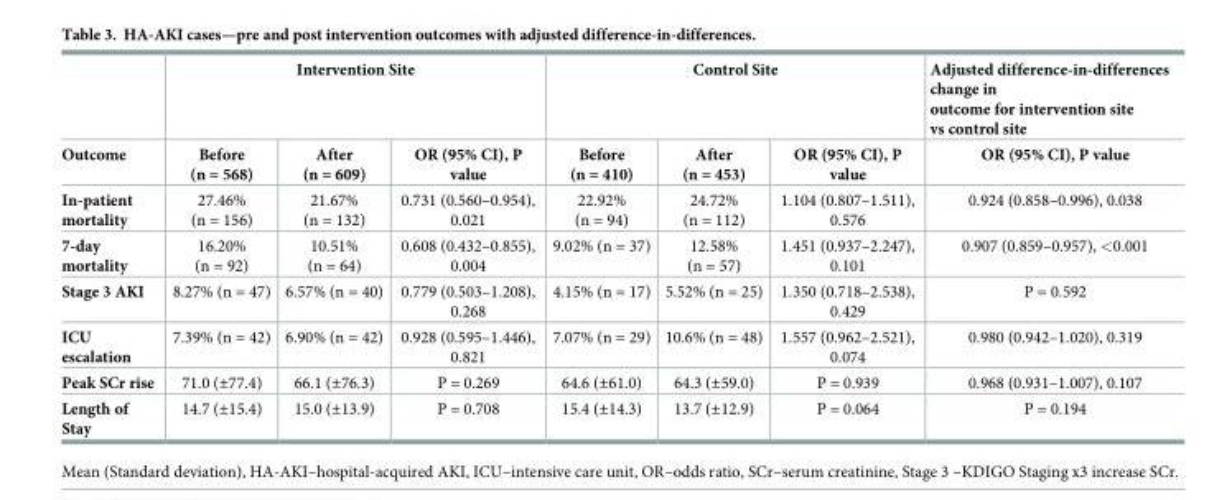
<table><thead><tr><td rowspan="2">Outcome</td><td colspan="3">Intervention Site</td><td colspan="3">Control Site</td><td rowspan="2">Adjusted difference-in-differences change in outcome for intervention site vs control site OR (95% CI), P value</td></tr><tr><td>Before (n = 568)</td><td>After (n = 609)</td><td>OR (95% CI), P value</td><td>Before (n = 410)</td><td>After (n = 453)</td><td>OR (95% CI), P value</td></tr></thead><tbody><tr><td>In-patient mortality</td><td>27.46% (n = 156)</td><td>21.67% (n = 132)</td><td>0.731 (0.560–0.954), 0.021</td><td>22.92% (n = 94)</td><td>24.72% (n = 112)</td><td>1.104 (0.807–1.511), 0.576</td><td>0.924 (0.858–0.996), 0.038</td></tr><tr><td>7-day mortality</td><td>16.20% (n = 92)</td><td>10.51% (n = 64)</td><td>0.608 (0.432–0.855), 0.004</td><td>9.02% (n = 37)</td><td>12.58% (n = 57)</td><td>1.451 (0.937–2.247), 0.101</td><td>0.907 (0.859–0.957), &lt;0.001</td></tr><tr><td>Stage 3 AKI</td><td>8.27% (n = 47)</td><td>6.57% (n = 40)</td><td>0.779 (0.503–1.208), 0.268</td><td>4.15% (n = 17)</td><td>5.52% (n = 25)</td><td>1.350 (0.718–2.538), 0.429</td><td>P = 0.592</td></tr><tr><td>ICU escalation</td><td>7.39% (n = 42)</td><td>6.90% (n = 42)</td><td>0.928 (0.595–1.446), 0.821</td><td>7.07% (n = 29)</td><td>10.6% (n = 48)</td><td>1.557 (0.962–2.521), 0.074</td><td>0.980 (0.942–1.020), 0.319</td></tr><tr><td>Peak SCr rise</td><td>71.0 (±77.4)</td><td>66.1 (±76.3)</td><td>P = 0.269</td><td>64.6 (±61.0)</td><td>64.3 (±59.0)</td><td>P = 0.939</td><td>0.968 (0.931–1.007), 0.107</td></tr><tr><td>Length of Stay</td><td>14.7 (±15.4)</td><td>15.0 (±13.9)</td><td>P = 0.708</td><td>15.4 (±14.3)</td><td>13.7 (±12.9)</td><td>P = 0.064</td><td>P = 0.194</td></tr></tbody></table>